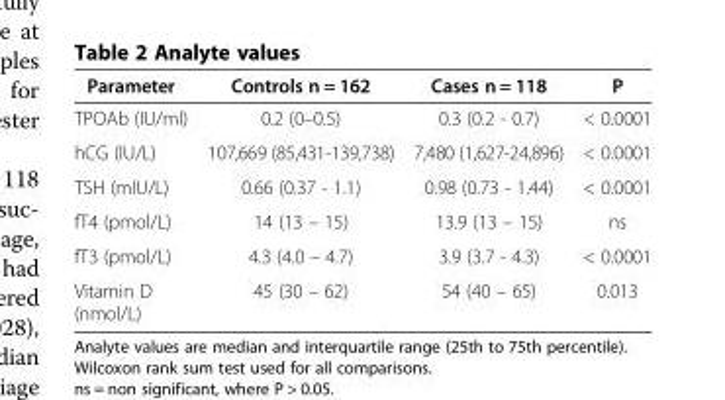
<table><thead><tr><td>Parameter</td><td>Controls n = 162</td><td>Cases n = 118</td><td>P</td></tr></thead><tbody><tr><td>TPOAb (IU/ml)</td><td>0.2 (0–0.5)</td><td>0.3 (0.2 - 0.7)</td><td>&lt; 0.0001</td></tr><tr><td>hCG (IU/L)</td><td>107,669 (85,431-139,738)</td><td>7,480 (1,627-24,896)</td><td>&lt; 0.0001</td></tr><tr><td>TSH (mIU/L)</td><td>0.66 (0.37 - 1.1)</td><td>0.98 (0.73 - 1.44)</td><td>&lt; 0.0001</td></tr><tr><td>fT4 (pmol/L)</td><td>14 (13 – 15)</td><td>13.9 (13 – 15)</td><td>ns</td></tr><tr><td>fT3 (pmol/L)</td><td>4.3 (4.0 – 4.7)</td><td>3.9 (3.7 - 4.3)</td><td>&lt; 0.0001</td></tr><tr><td>Vitamin D (nmol/L)</td><td>45 (30 – 62)</td><td>54 (40 – 65)</td><td>0.013</td></tr></tbody></table>